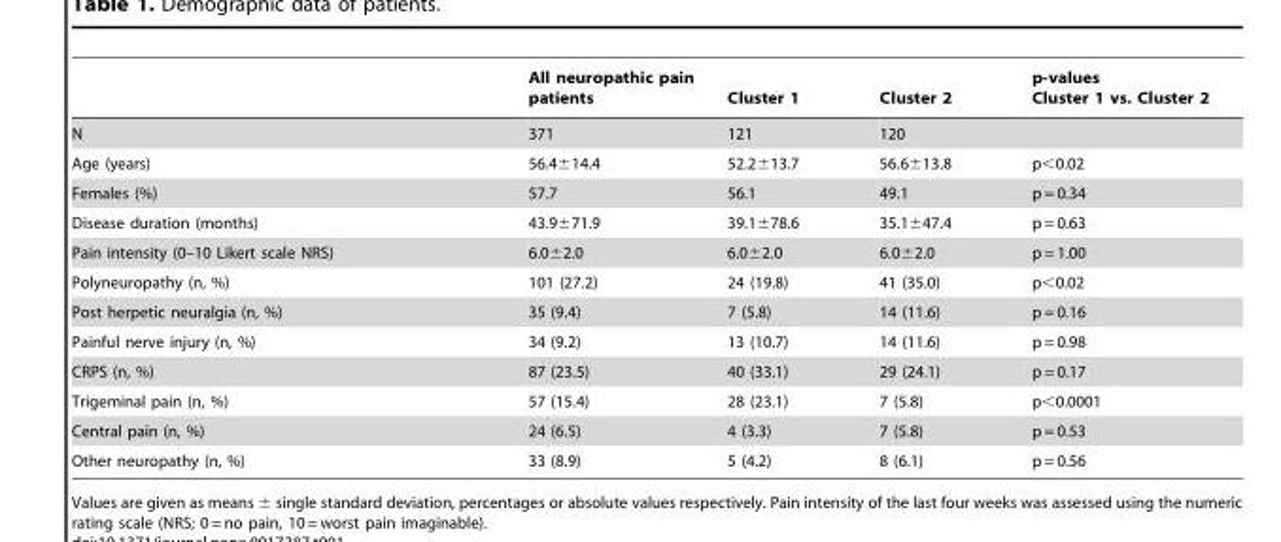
<table><thead><tr><td></td><td>All neuropathic pain patients</td><td>Cluster 1</td><td>Cluster 2</td><td>p-values Cluster 1 vs. Cluster 2</td></tr></thead><tbody><tr><td>N</td><td>371</td><td>121</td><td>120</td><td></td></tr><tr><td>Age (years)</td><td>56.4±14.4</td><td>52.2±13.7</td><td>56.6±13.8</td><td>p&lt;0.02</td></tr><tr><td>Females (%)</td><td>57.7</td><td>56.1</td><td>49.1</td><td>p = 0.34</td></tr><tr><td>Disease duration (months)</td><td>43.9±71.9</td><td>39.1±78.6</td><td>35.1±47.4</td><td>p = 0.63</td></tr><tr><td>Pain intensity (0–10 Likert scale NRS)</td><td>6.0±2.0</td><td>6.0±2.0</td><td>6.0±2.0</td><td>p = 1.00</td></tr><tr><td>Polyneuropathy (n, %)</td><td>101 (27.2)</td><td>24 (19.8)</td><td>41 (35.0)</td><td>p&lt;0.02</td></tr><tr><td>Post herpetic neuralgia (n, %)</td><td>35 (9.4)</td><td>7 (5.8)</td><td>14 (11.6)</td><td>p = 0.16</td></tr><tr><td>Painful nerve injury (n, %)</td><td>34 (9.2)</td><td>13 (10.7)</td><td>14 (11.6)</td><td>p = 0.98</td></tr><tr><td>CRPS (n, %)</td><td>87 (23.5)</td><td>40 (33.1)</td><td>29 (24.1)</td><td>p = 0.17</td></tr><tr><td>Trigeminal pain (n, %)</td><td>57 (15.4)</td><td>28 (23.1)</td><td>7 (5.8)</td><td>p&lt;0.0001</td></tr><tr><td>Central pain (n, %)</td><td>24 (6.5)</td><td>4 (3.3)</td><td>7 (5.8)</td><td>p = 0.53</td></tr><tr><td>Other neuropathy (n, %)</td><td>33 (8.9)</td><td>5 (4.2)</td><td>8 (6.1)</td><td>p = 0.56</td></tr></tbody></table>